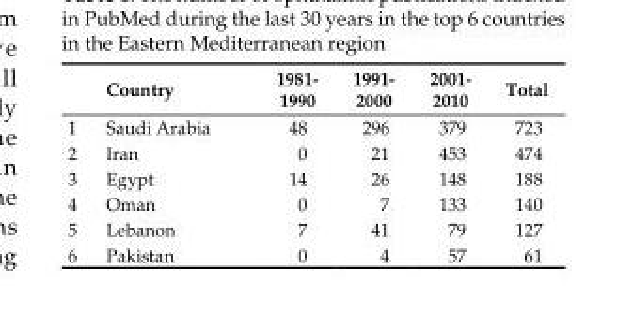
<table><thead><tr><td></td><td>Country</td><td>1981- 1990</td><td>1991- 2000</td><td>2001- 2010</td><td>Total</td></tr></thead><tbody><tr><td>1</td><td>Saudi Arabia</td><td>48</td><td>296</td><td>379</td><td>723</td></tr><tr><td>2</td><td>Iran</td><td>0</td><td>21</td><td>453</td><td>474</td></tr><tr><td>3</td><td>Egypt</td><td>14</td><td>26</td><td>148</td><td>188</td></tr><tr><td>4</td><td>Oman</td><td>0</td><td>7</td><td>133</td><td>140</td></tr><tr><td>5</td><td>Lebanon</td><td>7</td><td>41</td><td>79</td><td>127</td></tr><tr><td>6</td><td>Pakistan</td><td>0</td><td>4</td><td>57</td><td>61</td></tr></tbody></table>